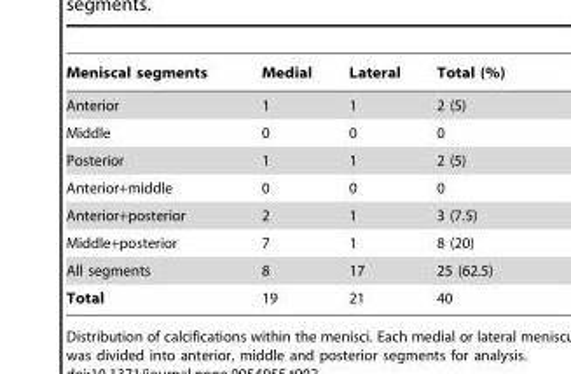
<table><thead><tr><td>Meniscal segments</td><td>Medial</td><td>Lateral</td><td>Total (%)</td></tr></thead><tbody><tr><td>Anterior</td><td>1</td><td>1</td><td>2 (5)</td></tr><tr><td>Middle</td><td>0</td><td>0</td><td>0</td></tr><tr><td>Posterior</td><td>1</td><td>1</td><td>2 (5)</td></tr><tr><td>Anterior+middle</td><td>0</td><td>0</td><td>0</td></tr><tr><td>Anterior+posterior</td><td>2</td><td>1</td><td>3 (7.5)</td></tr><tr><td>Middle+posterior</td><td>7</td><td>1</td><td>8 (20)</td></tr><tr><td>All segments</td><td>8</td><td>17</td><td>25 (62.5)</td></tr><tr><td>Total</td><td>19</td><td>21</td><td>40</td></tr></tbody></table>